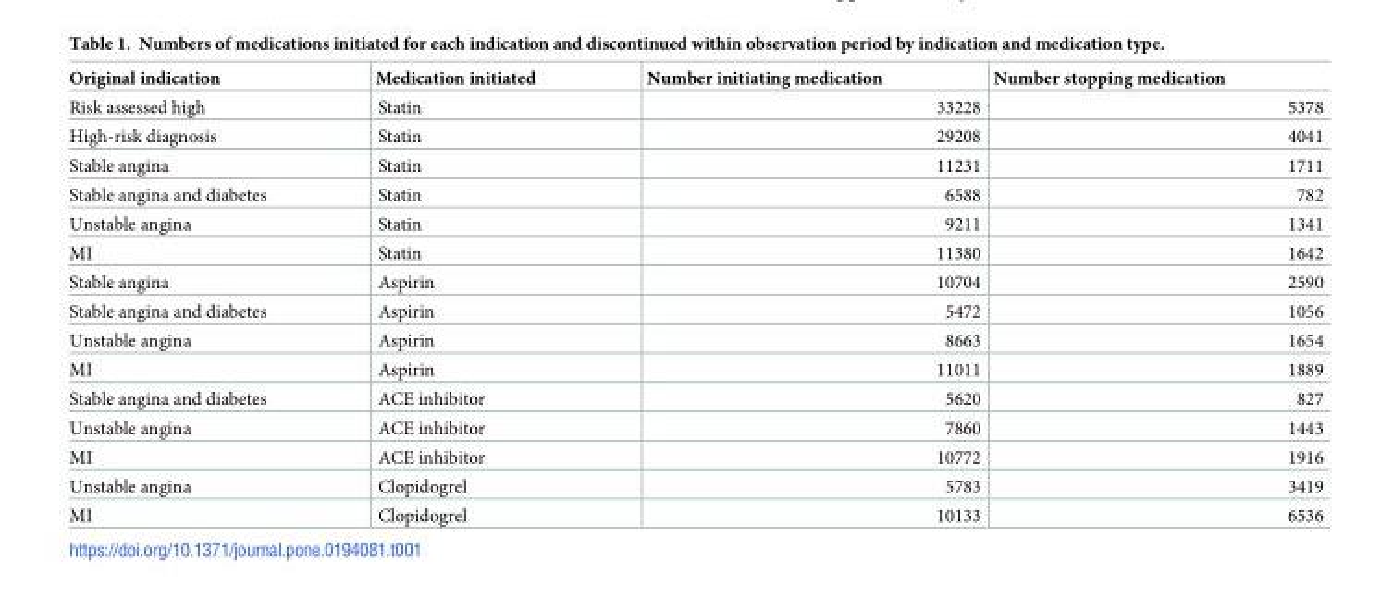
<table><thead><tr><td>Original indication</td><td>Medication initiated</td><td>Number initiating medication</td><td>Number stopping medication</td></tr></thead><tbody><tr><td>Risk assessed high</td><td>Statin</td><td>33228</td><td>5378</td></tr><tr><td>High-risk diagnosis</td><td>Statin</td><td>29208</td><td>4041</td></tr><tr><td>Stable angina</td><td>Statin</td><td>11231</td><td>1711</td></tr><tr><td>Stable angina and diabetes</td><td>Statin</td><td>6588</td><td>782</td></tr><tr><td>Unstable angina</td><td>Statin</td><td>9211</td><td>1341</td></tr><tr><td>MI</td><td>Statin</td><td>11380</td><td>1642</td></tr><tr><td>Stable angina</td><td>Aspirin</td><td>10704</td><td>2590</td></tr><tr><td>Stable angina and diabetes</td><td>Aspirin</td><td>5472</td><td>1056</td></tr><tr><td>Unstable angina</td><td>Aspirin</td><td>8663</td><td>1654</td></tr><tr><td>MI</td><td>Aspirin</td><td>11011</td><td>1889</td></tr><tr><td>Stable angina and diabetes</td><td>ACE inhibitor</td><td>5620</td><td>827</td></tr><tr><td>Unstable angina</td><td>ACE inhibitor</td><td>7860</td><td>1443</td></tr><tr><td>MI</td><td>ACE inhibitor</td><td>10772</td><td>1916</td></tr><tr><td>Unstable angina</td><td>Clopidogrel</td><td>5783</td><td>3419</td></tr><tr><td>MI</td><td>Clopidogrel</td><td>10133</td><td>6536</td></tr></tbody></table>